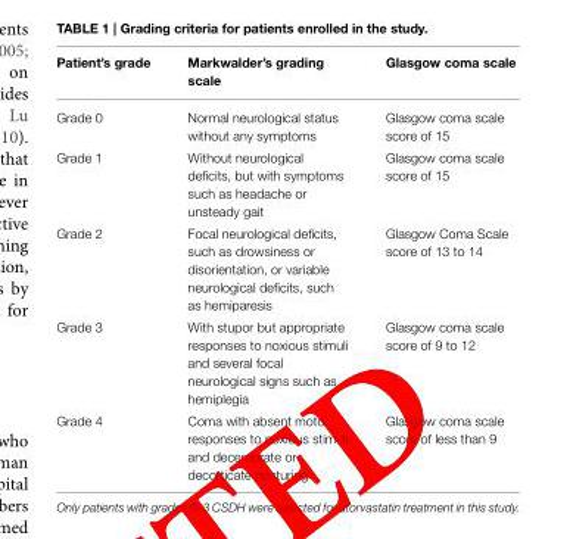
<table><thead><tr><td>Patient’s grade</td><td>Markwalder’s grading scale</td><td>Glasgow coma scale</td></tr></thead><tbody><tr><td>Grade 0</td><td>Normal neurological status without any symptoms</td><td>Glasgow coma scale score of 15</td></tr><tr><td>Grade 1</td><td>Without neurological deficits, but with symptoms such as headache or unsteady gait</td><td>Glasgow coma scale score of 15</td></tr><tr><td>Grade 2</td><td>Focal neurological deficits, such as drowsiness or disorientation, or variable neurological deficits, such as hemiparesis</td><td>Glasgow Coma Scale score of 13 to 14</td></tr><tr><td>Grade 3</td><td>With stupor but appropriate responses to noxious stimuli and several focal neurological signs such as hemiplegia</td><td>Glasgow coma scale score of 9 to 12</td></tr><tr><td>Grade 4</td><td>Coma with absent motor responses to noxious stimuli and decerebrate or decorticate posturing</td><td>Glasgow coma scale score of less than 9</td></tr></tbody></table>